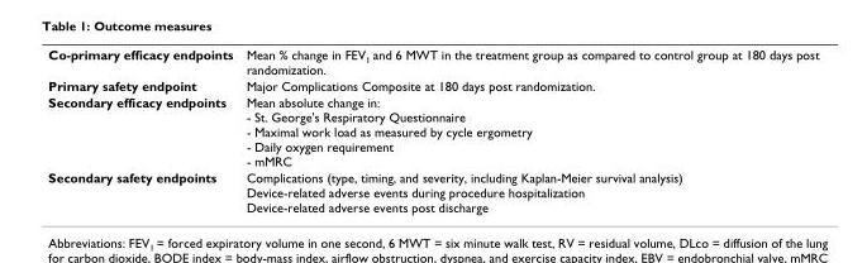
<table><tbody><tr><td>Co-primary efficacy endpoints</td><td>Mean % change in FEV<sub>1</sub> and 6 MWT in the treatment group as compared to control group at 180 days post randomization.</td></tr><tr><td>Primary safety endpoint</td><td>Major Complications Composite at 180 days post randomization.</td></tr><tr><td>Secondary efficacy endpoints</td><td>Mean absolute change in: - St. George&#x27;s Respiratory Questionnaire - Maximal work load as measured by cycle ergometry - Daily oxygen requirement - mMRC</td></tr><tr><td>Secondary safety endpoints</td><td>Complications (type, timing, and severity, including Kaplan-Meier survival analysis) Device-related adverse events during procedure hospitalization Device-related adverse events post discharge</td></tr></tbody></table>